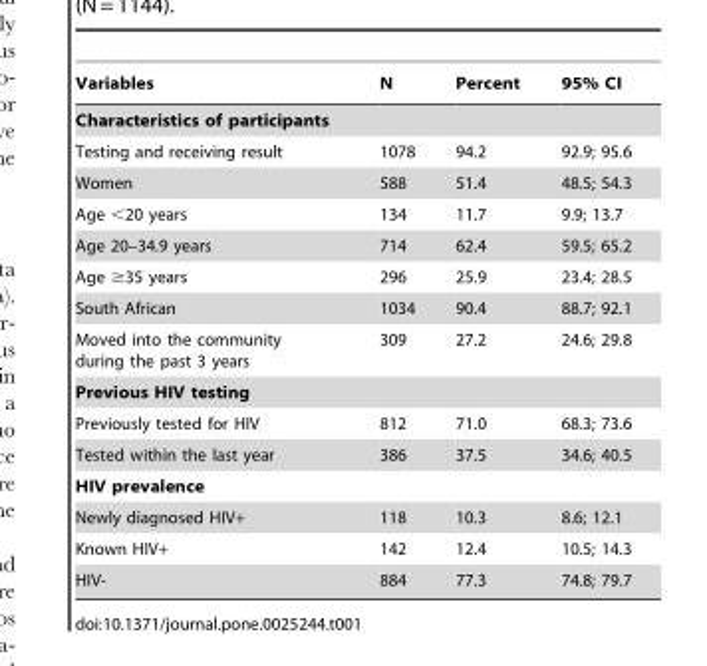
<table><thead><tr><td>Variables</td><td>N</td><td>Percent</td><td>95% CI</td></tr></thead><tbody><tr><td colspan="4">Characteristics of participants</td></tr><tr><td>Testing and receiving result</td><td>1078</td><td>94.2</td><td>92.9; 95.6</td></tr><tr><td>Women</td><td>588</td><td>51.4</td><td>48.5; 54.3</td></tr><tr><td>Age &lt;20 years</td><td>134</td><td>11.7</td><td>9.9; 13.7</td></tr><tr><td>Age 20–34.9 years</td><td>714</td><td>62.4</td><td>59.5; 65.2</td></tr><tr><td>Age ≥35 years</td><td>296</td><td>25.9</td><td>23.4; 28.5</td></tr><tr><td>South African</td><td>1034</td><td>90.4</td><td>88.7; 92.1</td></tr><tr><td>Moved into the community during the past 3 years</td><td>309</td><td>27.2</td><td>24.6; 29.8</td></tr><tr><td colspan="4">Previous HIV testing</td></tr><tr><td>Previously tested for HIV</td><td>812</td><td>71.0</td><td>68.3; 73.6</td></tr><tr><td>Tested within the last year</td><td>386</td><td>37.5</td><td>34.6; 40.5</td></tr><tr><td colspan="4">HIV prevalence</td></tr><tr><td>Newly diagnosed HIV+</td><td>118</td><td>10.3</td><td>8.6; 12.1</td></tr><tr><td>Known HIV+</td><td>142</td><td>12.4</td><td>10.5; 14.3</td></tr><tr><td>HIV-</td><td>884</td><td>77.3</td><td>74.8; 79.7</td></tr></tbody></table>